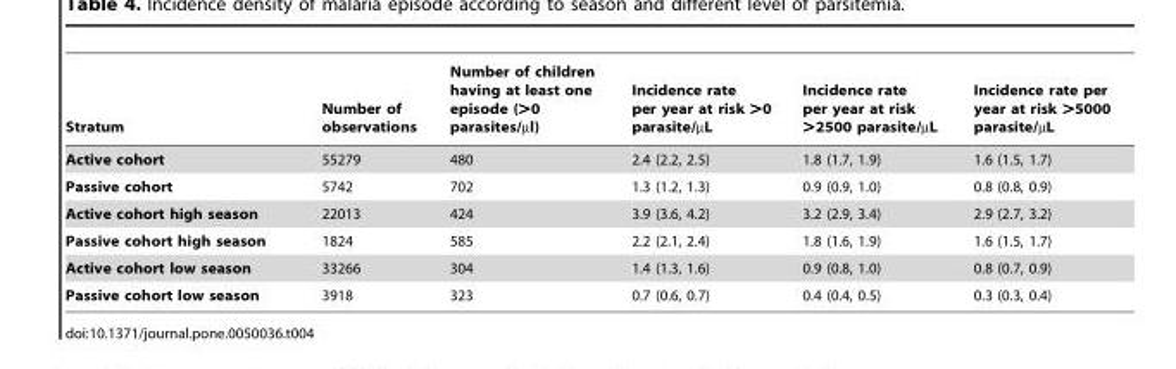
<table><thead><tr><td>Stratum</td><td>Number of observations</td><td>Number of children having at least one episode (&gt;0 parasites/µl)</td><td>Incidence rate per year at risk &gt;0 parasite/µL</td><td>Incidence rate per year at risk &gt;2500 parasite/µL</td><td>Incidence rate per year at risk &gt;5000 parasite/µL</td></tr></thead><tbody><tr><td>Active cohort</td><td>55279</td><td>480</td><td>2.4 (2.2, 2.5)</td><td>1.8 (1.7, 1.9)</td><td>1.6 (1.5, 1.7)</td></tr><tr><td>Passive cohort</td><td>5742</td><td>702</td><td>1.3 (1.2, 1.3)</td><td>0.9 (0.9, 1.0)</td><td>0.8 (0.8, 0.9)</td></tr><tr><td>Active cohort high season</td><td>22013</td><td>424</td><td>3.9 (3.6, 4.2)</td><td>3.2 (2.9, 3.4)</td><td>2.9 (2.7, 3.2)</td></tr><tr><td>Passive cohort high season</td><td>1824</td><td>585</td><td>2.2 (2.1, 2.4)</td><td>1.8 (1.6, 1.9)</td><td>1.6 (1.5, 1.7)</td></tr><tr><td>Active cohort low season</td><td>33266</td><td>304</td><td>1.4 (1.3, 1.6)</td><td>0.9 (0.8, 1.0)</td><td>0.8 (0.7, 0.9)</td></tr><tr><td>Passive cohort low season</td><td>3918</td><td>323</td><td>0.7 (0.6, 0.7)</td><td>0.4 (0.4, 0.5)</td><td>0.3 (0.3, 0.4)</td></tr></tbody></table>